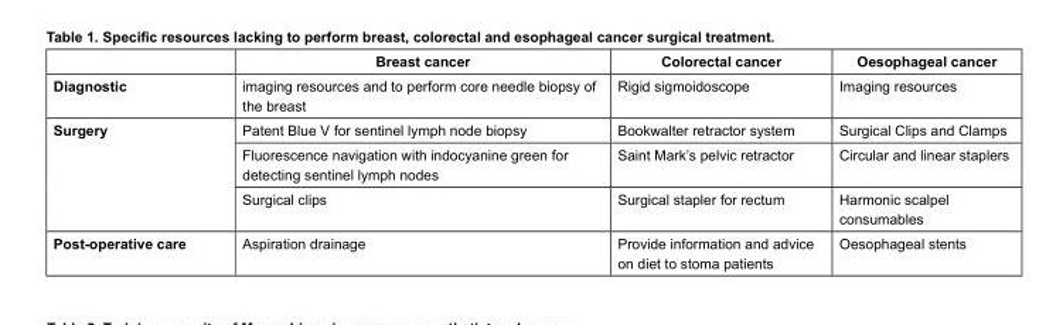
<table><thead><tr><td></td><td>Breast cancer</td><td>Colorectal cancer</td><td>Oesophageal cancer</td></tr></thead><tbody><tr><td>Diagnostic</td><td>imaging resources and to perform core needle biopsy of the breast</td><td>Rigid sigmoidoscope</td><td>Imaging resources</td></tr><tr><td rowspan="3">Surgery</td><td>Patent Blue V for sentinel lymph node biopsy</td><td>Bookwalter retractor system</td><td>Surgical Clips and Clamps</td></tr><tr><td>Fluorescence navigation with indocyanine green for detecting sentinel lymph nodes</td><td>Saint Mark’s pelvic retractor</td><td>Circular and linear staplers</td></tr><tr><td>Surgical clips</td><td>Surgical stapler for rectum</td><td>Harmonic scalpel consumables</td></tr><tr><td>Post-operative care</td><td>Aspiration drainage</td><td>Provide information and advice on diet to stoma patients</td><td>Oesophageal stents</td></tr></tbody></table>